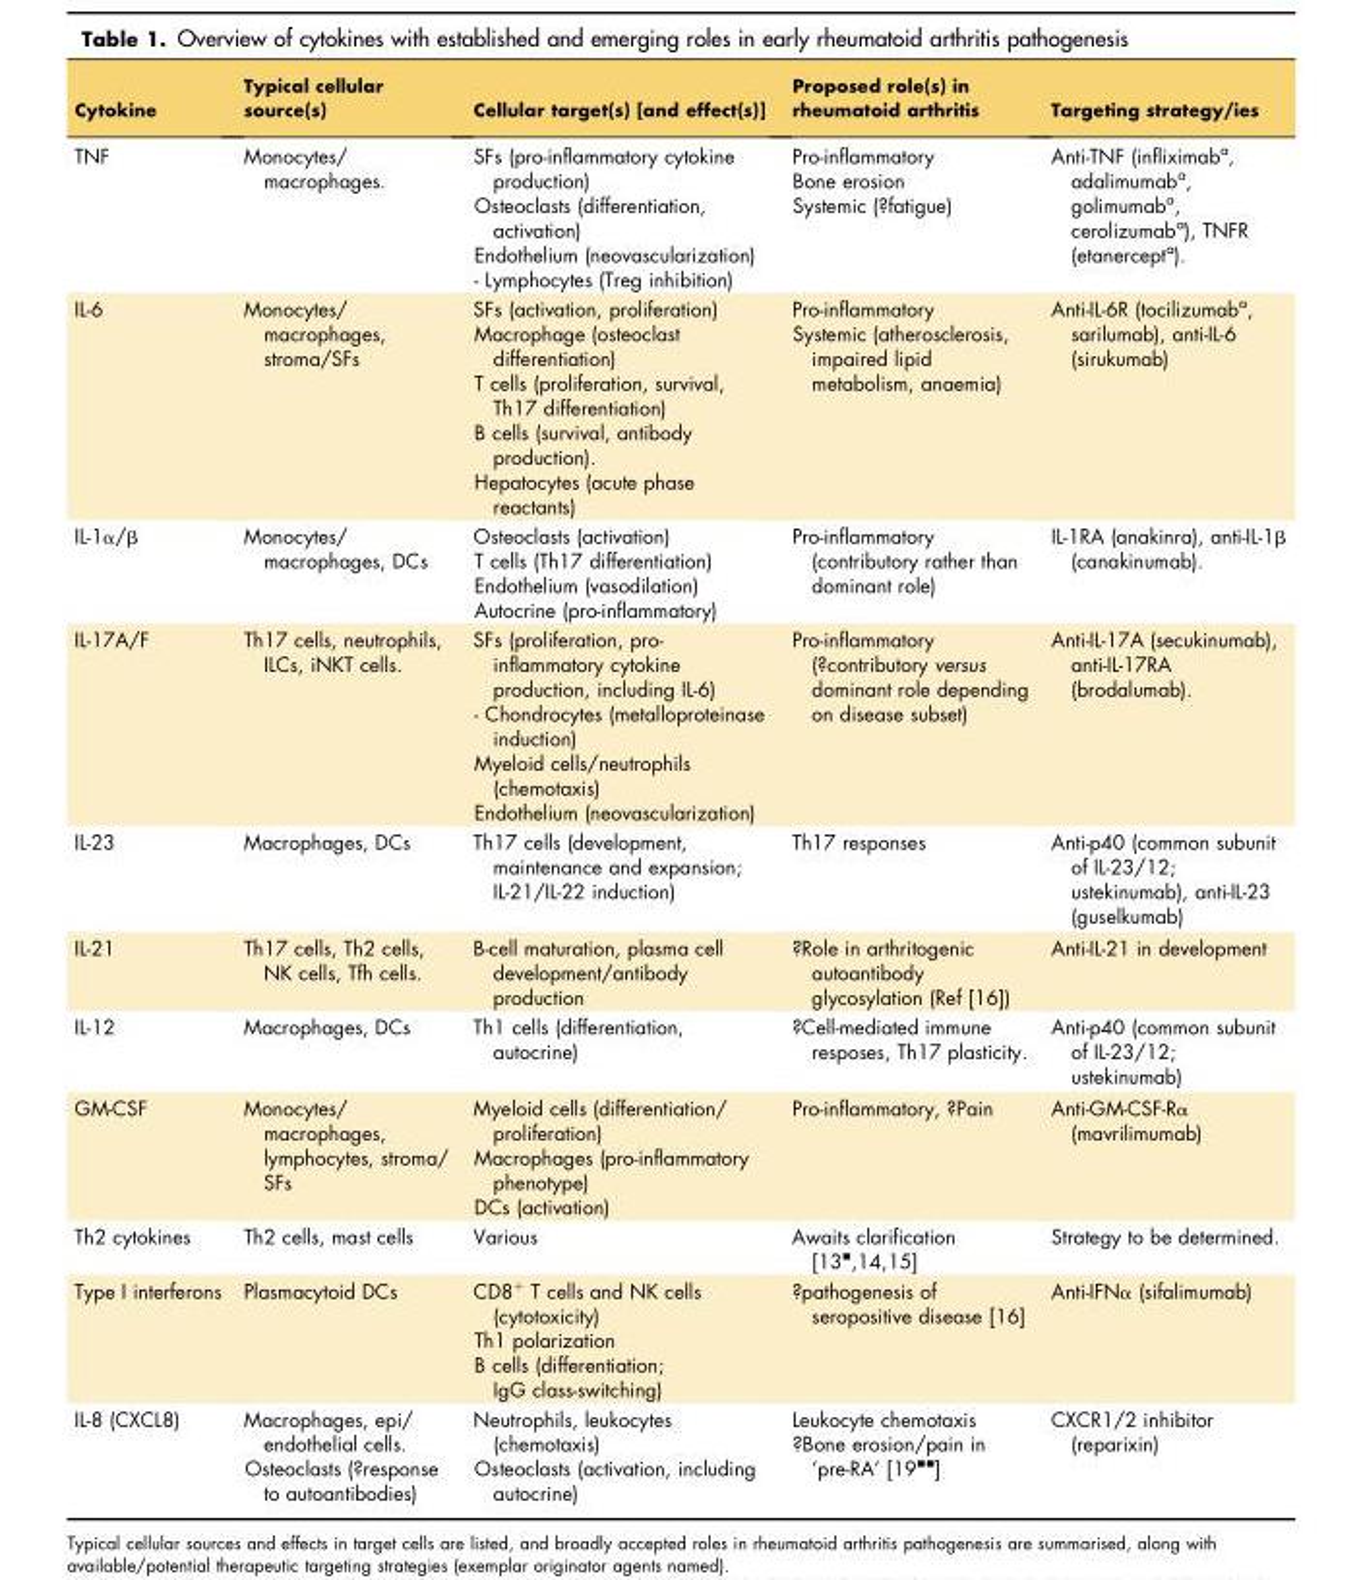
<table><thead><tr><td>Cytokine</td><td>Typical cellular source(s)</td><td>Cellular target(s) [and effect(s)]</td><td>Proposed role(s) in rheumatoid arthritis</td><td>Targeting strategy/ies</td></tr></thead><tbody><tr><td>TNF</td><td>Monocytes/ macrophages.</td><td>SFs (pro-inflammatory cytokine production) Osteoclasts (differentiation, activation) Endothelium (neovascularization) - Lymphocytes (Treg inhibition)</td><td>Pro-inflammatory Bone erosion Systemic (?fatigue)</td><td>Anti-TNF (infliximab<sup>a</sup>, adalimumab<sup>a</sup>, golimumab<sup>a</sup>, cerolizumab<sup>a</sup>), TNFR (etanercept<sup>a</sup>).</td></tr><tr><td>IL-6</td><td>Monocytes/ macrophages, stroma/SFs</td><td>SFs (activation, proliferation) Macrophage (osteoclast differentiation) T cells (proliferation, survival, Th17 differentiation) B cells (survival, antibody production). Hepatocytes (acute phase reactants)</td><td>Pro-inflammatory Systemic (atherosclerosis, impaired lipid metabolism, anaemia)</td><td>Anti-IL-6R (tocilizumab<sup>a</sup>, sarilumab), anti-IL-6 (sirukumab)</td></tr><tr><td>IL-1α/β</td><td>Monocytes/ macrophages, DCs</td><td>Osteoclasts (activation) T cells (Th17 differentiation) Endothelium (vasodilation) Autocrine (pro-inflammatory)</td><td>Pro-inflammatory (contributory rather than dominant role)</td><td>IL-1RA (anakinra), anti-IL-1β (canakinumab).</td></tr><tr><td>IL-17A/F</td><td>Th17 cells, neutrophils, ILCs, iNKT cells.</td><td>SFs (proliferation, pro- inflammatory cytokine production, including IL-6) - Chondrocytes (metalloproteinase induction) Myeloid cells/neutrophils (chemotaxis) Endothelium (neovascularization)</td><td>Pro-inflammatory (?contributory versus dominant role depending on disease subset)</td><td>Anti-IL-17A (secukinumab), anti-IL-17RA (brodalumab).</td></tr><tr><td>IL-23</td><td>Macrophages, DCs</td><td>Th17 cells (development, maintenance and expansion; IL-21/IL-22 induction)</td><td>Th17 responses</td><td>Anti-p40 (common subunit of IL-23/12; ustekinumab), anti-IL-23 (guselkumab)</td></tr><tr><td>IL-21</td><td>Th17 cells, Th2 cells, NK cells, Tfh cells.</td><td>B-cell maturation, plasma cell development/antibody production</td><td>?Role in arthritogenic autoantibody glycosylation (Ref [16])</td><td>Anti-IL-21 in development</td></tr><tr><td>IL-12</td><td>Macrophages, DCs</td><td>Th1 cells (differentiation, autocrine)</td><td>?Cell-mediated immune resposes, Th17 plasticity.</td><td>Anti-p40 (common subunit of IL-23/12; ustekinumab)</td></tr><tr><td>GM-CSF</td><td>Monocytes/ macrophages, lymphocytes, stroma/ SFs</td><td>Myeloid cells (differentiation/ proliferation) Macrophages (pro-inflammatory phenotype) DCs (activation)</td><td>Pro-inflammatory, ?Pain</td><td>Anti-GM-CSF-Rα (mavrilimumab)</td></tr><tr><td>Th2 cytokines</td><td>Th2 cells, mast cells</td><td>Various</td><td>Awaits clarification [13 <sup>▪</sup>,<sup>14</sup>,<sup>15</sup>]</td><td>Strategy to be determined.</td></tr><tr><td>Type I interferons</td><td>Plasmacytoid DCs</td><td>CD8<sup>+</sup> T cells and NK cells (cytotoxicity) Th1 polarization B cells (differentiation; IgG class-switching)</td><td>?pathogenesis of seropositive disease [16]</td><td>Anti-IFNα (sifalimumab)</td></tr><tr><td>IL-8 (CXCL8)</td><td>Macrophages, epi/ endothelial cells. Osteoclasts (?response to autoantibodies)</td><td>Neutrophils, leukocytes (chemotaxis) Osteoclasts (activation, including autocrine)</td><td>Leukocyte chemotaxis ?Bone erosion/pain in ‘pre-RA’ [19 <sup>▪▪</sup>]</td><td>CXCR1/2 inhibitor (reparixin)</td></tr></tbody></table>